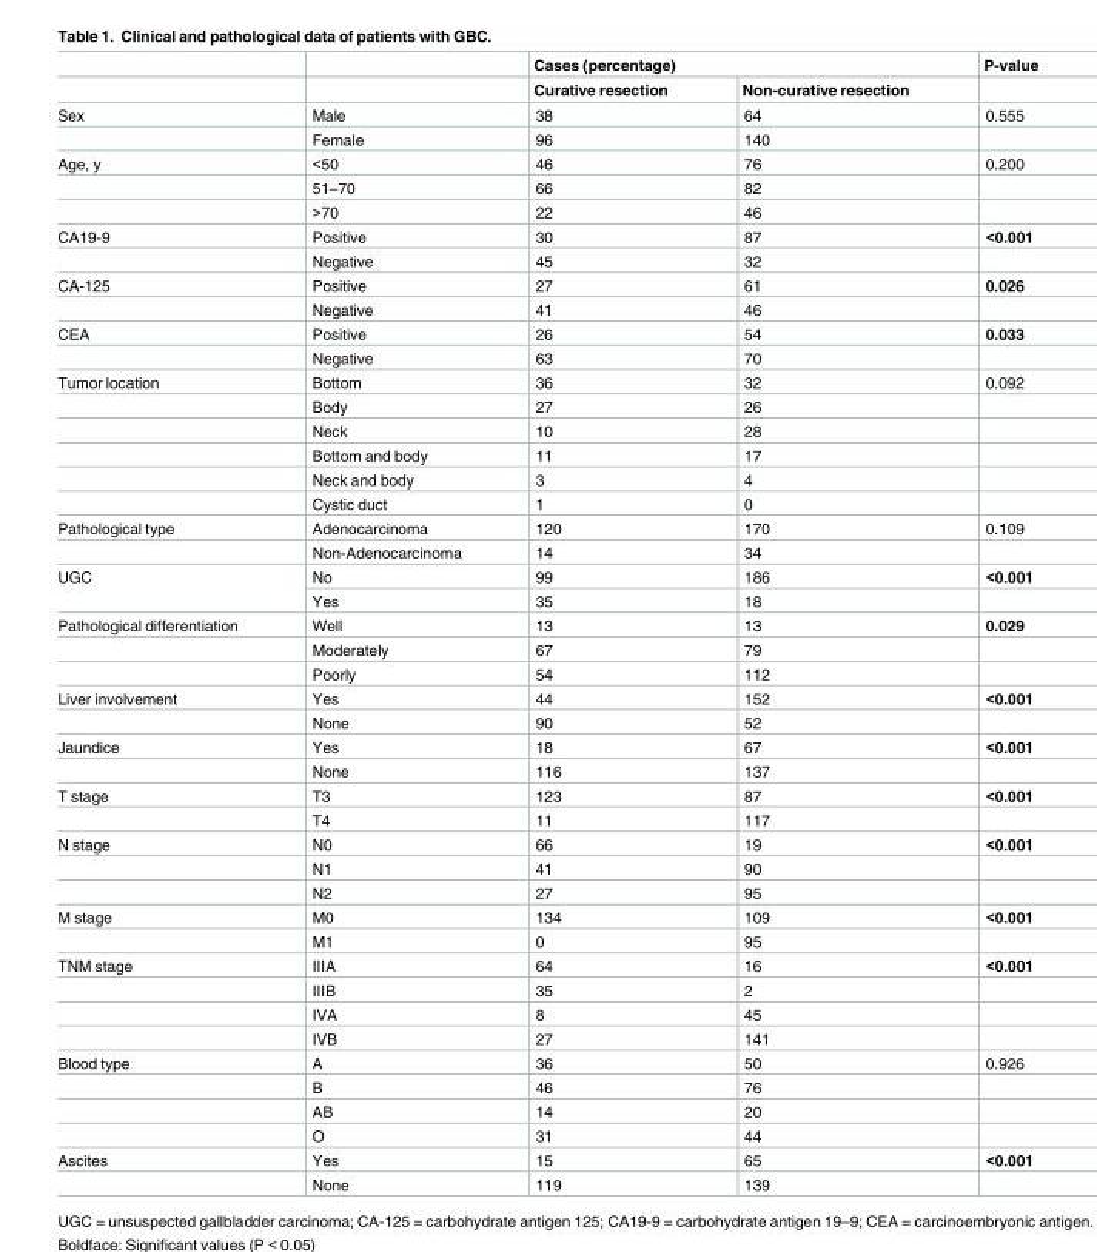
<table><thead><tr><td rowspan="2"></td><td rowspan="2"></td><td colspan="2">Cases (percentage)</td><td rowspan="2">P-value</td></tr><tr><td>Curative resection</td><td>Non-curative resection</td></tr></thead><tbody><tr><td rowspan="2">Sex</td><td>Male</td><td>38</td><td>64</td><td>0.555</td></tr><tr><td>Female</td><td>96</td><td>140</td><td></td></tr><tr><td rowspan="3">Age, y</td><td>&lt;50</td><td>46</td><td>76</td><td>0.200</td></tr><tr><td>51–70</td><td>66</td><td>82</td><td></td></tr><tr><td>&gt;70</td><td>22</td><td>46</td><td></td></tr><tr><td rowspan="2">CA19-9</td><td>Positive</td><td>30</td><td>87</td><td>&lt;0.001</td></tr><tr><td>Negative</td><td>45</td><td>32</td><td></td></tr><tr><td rowspan="2">CA-125</td><td>Positive</td><td>27</td><td>61</td><td>0.026</td></tr><tr><td>Negative</td><td>41</td><td>46</td><td></td></tr><tr><td rowspan="2">CEA</td><td>Positive</td><td>26</td><td>54</td><td>0.033</td></tr><tr><td>Negative</td><td>63</td><td>70</td><td></td></tr><tr><td rowspan="6">Tumor location</td><td>Bottom</td><td>36</td><td>32</td><td>0.092</td></tr><tr><td>Body</td><td>27</td><td>26</td><td></td></tr><tr><td>Neck</td><td>10</td><td>28</td><td></td></tr><tr><td>Bottom and body</td><td>11</td><td>17</td><td></td></tr><tr><td>Neck and body</td><td>3</td><td>4</td><td></td></tr><tr><td>Cystic duct</td><td>1</td><td>0</td><td></td></tr><tr><td rowspan="2">Pathological type</td><td>Adenocarcinoma</td><td>120</td><td>170</td><td>0.109</td></tr><tr><td>Non-Adenocarcinoma</td><td>14</td><td>34</td><td></td></tr><tr><td rowspan="2">UGC</td><td>No</td><td>99</td><td>186</td><td>&lt;0.001</td></tr><tr><td>Yes</td><td>35</td><td>18</td><td></td></tr><tr><td rowspan="3">Pathological differentiation</td><td>Well</td><td>13</td><td>13</td><td>0.029</td></tr><tr><td>Moderately</td><td>67</td><td>79</td><td></td></tr><tr><td>Poorly</td><td>54</td><td>112</td><td></td></tr><tr><td rowspan="2">Liver involvement</td><td>Yes</td><td>44</td><td>152</td><td>&lt;0.001</td></tr><tr><td>None</td><td>90</td><td>52</td><td></td></tr><tr><td rowspan="2">Jaundice</td><td>Yes</td><td>18</td><td>67</td><td>&lt;0.001</td></tr><tr><td>None</td><td>116</td><td>137</td><td></td></tr><tr><td rowspan="2">T stage</td><td>T3</td><td>123</td><td>87</td><td>&lt;0.001</td></tr><tr><td>T4</td><td>11</td><td>117</td><td></td></tr><tr><td rowspan="3">N stage</td><td>N0</td><td>66</td><td>19</td><td>&lt;0.001</td></tr><tr><td>N1</td><td>41</td><td>90</td><td></td></tr><tr><td>N2</td><td>27</td><td>95</td><td></td></tr><tr><td rowspan="2">M stage</td><td>M0</td><td>134</td><td>109</td><td>&lt;0.001</td></tr><tr><td>M1</td><td>0</td><td>95</td><td></td></tr><tr><td rowspan="4">TNM stage</td><td>IIIA</td><td>64</td><td>16</td><td>&lt;0.001</td></tr><tr><td>IIIB</td><td>35</td><td>2</td><td></td></tr><tr><td>IVA</td><td>8</td><td>45</td><td></td></tr><tr><td>IVB</td><td>27</td><td>141</td><td></td></tr><tr><td rowspan="4">Blood type</td><td>A</td><td>36</td><td>50</td><td>0.926</td></tr><tr><td>B</td><td>46</td><td>76</td><td></td></tr><tr><td>AB</td><td>14</td><td>20</td><td></td></tr><tr><td>O</td><td>31</td><td>44</td><td></td></tr><tr><td rowspan="2">Ascites</td><td>Yes</td><td>15</td><td>65</td><td>&lt;0.001</td></tr><tr><td>None</td><td>119</td><td>139</td><td></td></tr></tbody></table>